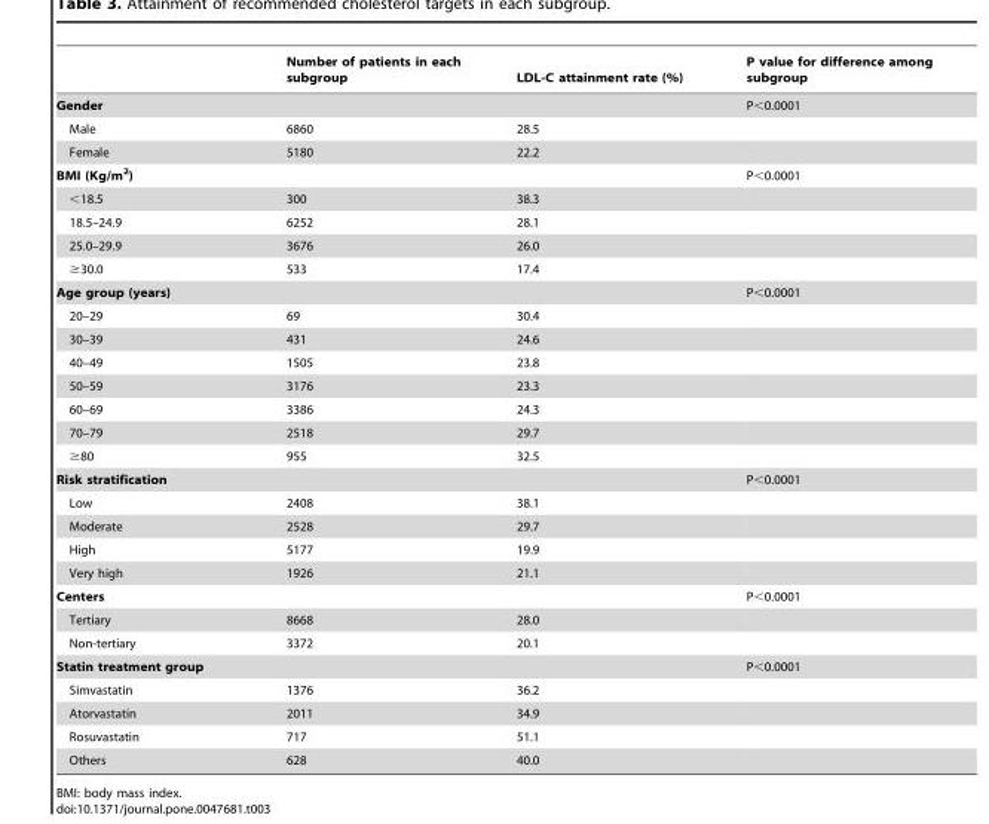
<table><thead><tr><td></td><td>Number of patients in each subgroup</td><td>LDL-C attainment rate (%)</td><td>P value for difference among subgroup</td></tr></thead><tbody><tr><td>Gender</td><td></td><td></td><td>P&lt;0.0001</td></tr><tr><td>Male</td><td>6860</td><td>28.5</td><td></td></tr><tr><td>Female</td><td>5180</td><td>22.2</td><td></td></tr><tr><td>BMI (Kg/m<sup>2</sup>)</td><td></td><td></td><td>P&lt;0.0001</td></tr><tr><td>&lt;18.5</td><td>300</td><td>38.3</td><td></td></tr><tr><td>18.5–24.9</td><td>6252</td><td>28.1</td><td></td></tr><tr><td>25.0–29.9</td><td>3676</td><td>26.0</td><td></td></tr><tr><td>≥30.0</td><td>533</td><td>17.4</td><td></td></tr><tr><td>Age group (years)</td><td></td><td></td><td>P&lt;0.0001</td></tr><tr><td>20–29</td><td>69</td><td>30.4</td><td></td></tr><tr><td>30–39</td><td>431</td><td>24.6</td><td></td></tr><tr><td>40–49</td><td>1505</td><td>23.8</td><td></td></tr><tr><td>50–59</td><td>3176</td><td>23.3</td><td></td></tr><tr><td>60–69</td><td>3386</td><td>24.3</td><td></td></tr><tr><td>70–79</td><td>2518</td><td>29.7</td><td></td></tr><tr><td>≥80</td><td>955</td><td>32.5</td><td></td></tr><tr><td>Risk stratification</td><td></td><td></td><td>P&lt;0.0001</td></tr><tr><td>Low</td><td>2408</td><td>38.1</td><td></td></tr><tr><td>Moderate</td><td>2528</td><td>29.7</td><td></td></tr><tr><td>High</td><td>5177</td><td>19.9</td><td></td></tr><tr><td>Very high</td><td>1926</td><td>21.1</td><td></td></tr><tr><td>Centers</td><td></td><td></td><td>P&lt;0.0001</td></tr><tr><td>Tertiary</td><td>8668</td><td>28.0</td><td></td></tr><tr><td>Non-tertiary</td><td>3372</td><td>20.1</td><td></td></tr><tr><td>Statin treatment group</td><td></td><td></td><td>P&lt;0.0001</td></tr><tr><td>Simvastatin</td><td>1376</td><td>36.2</td><td></td></tr><tr><td>Atorvastatin</td><td>2011</td><td>34.9</td><td></td></tr><tr><td>Rosuvastatin</td><td>717</td><td>51.1</td><td></td></tr><tr><td>Others</td><td>628</td><td>40.0</td><td></td></tr></tbody></table>